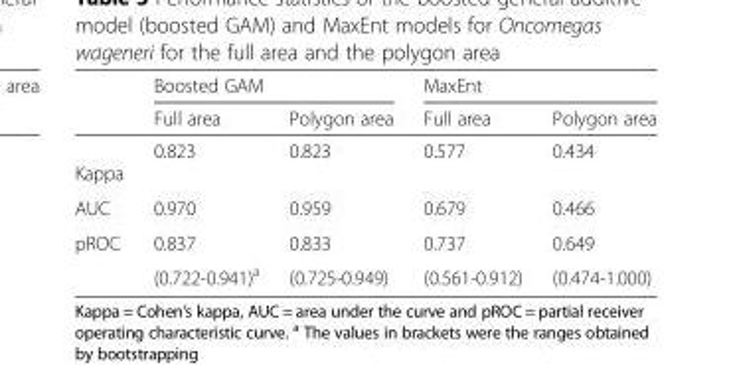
<table><thead><tr><td rowspan="2"></td><td colspan="2">Boosted GAM</td><td colspan="2">MaxEnt</td></tr><tr><td>Full area</td><td>Polygon area</td><td>Full area</td><td>Polygon area</td></tr></thead><tbody><tr><td>Kappa</td><td>0.823</td><td>0.823</td><td>0.577</td><td>0.434</td></tr><tr><td>AUC</td><td>0.970</td><td>0.959</td><td>0.679</td><td>0.466</td></tr><tr><td rowspan="2">pROC</td><td>0.837</td><td>0.833</td><td>0.737</td><td>0.649</td></tr><tr><td>(0.722-0.941)<sup>a</sup></td><td>(0.725-0.949)</td><td>(0.561-0.912)</td><td>(0.474-1.000)</td></tr></tbody></table>